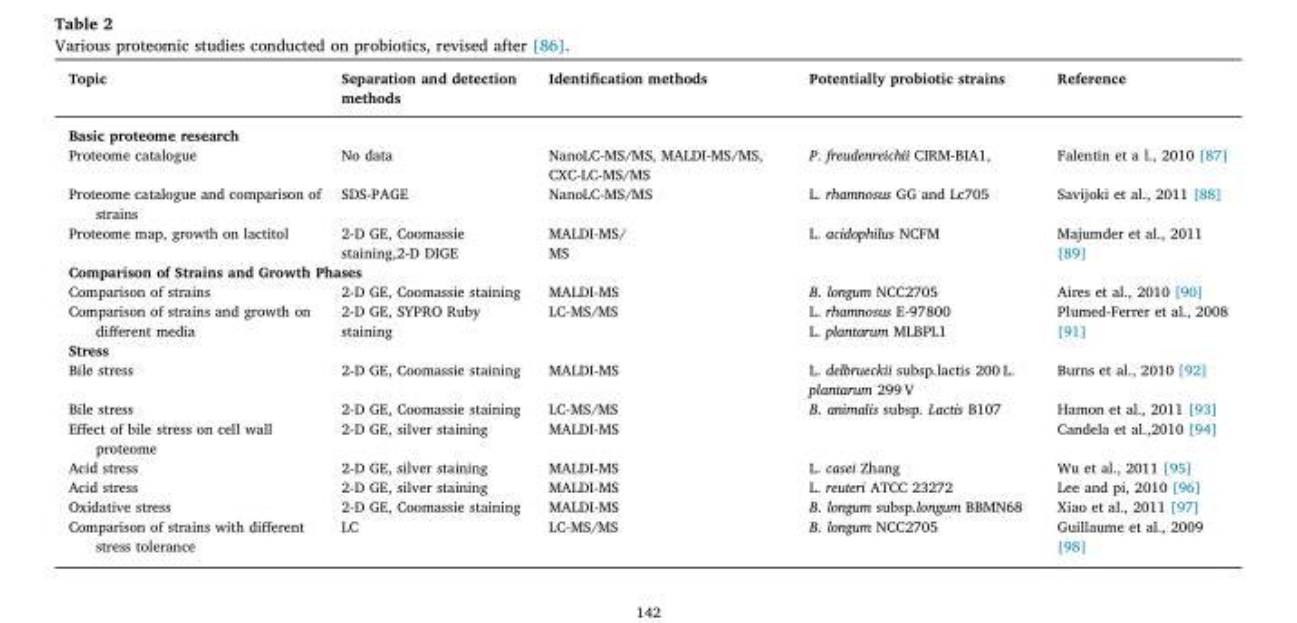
<table><thead><tr><td>Topic</td><td>Separation and detection methods</td><td>Identification methods</td><td>Potentially probiotic strains</td><td>Reference</td></tr></thead><tbody><tr><td colspan="5">Basic proteome research</td></tr><tr><td>Proteome catalogue</td><td>No data</td><td>NanoLC-MS/MS, MALDI-MS/MS, CXC-LC-MS/MS</td><td>P. freudenreichii CIRM-BIA1,</td><td>Falentin et a l., 2010 [87]</td></tr><tr><td>Proteome catalogue and comparison of strains</td><td>SDS-PAGE</td><td>NanoLC-MS/MS</td><td>L. rhamnosus GG and Lc705</td><td>Savijoki et al., 2011 [88]</td></tr><tr><td rowspan="2">Proteome map, growth on lactitol</td><td rowspan="2">2-D GE, Coomassie staining,2-D DIGE</td><td>MALDI-MS/</td><td rowspan="2">L. acidophilus NCFM</td><td rowspan="2">Majumder et al., 2011 [89]</td></tr><tr><td>MS</td></tr><tr><td colspan="5">Comparison of Strains and Growth Phases</td></tr><tr><td>Comparison of strains</td><td>2-D GE, Coomassie staining</td><td>MALDI-MS</td><td>B. longum NCC2705</td><td>Aires et al., 2010 [90]</td></tr><tr><td rowspan="2">Comparison of strains and growth on different media</td><td rowspan="2">2-D GE, SYPRO Ruby staining</td><td rowspan="2">LC-MS/MS</td><td>L. rhamnosus E-97800</td><td rowspan="2">Plumed-Ferrer et al., 2008 [91]</td></tr><tr><td>L. plantarum MLBPL1</td></tr><tr><td colspan="5">Stress</td></tr><tr><td>Bile stress</td><td>2-D GE, Coomassie staining</td><td>MALDI-MS</td><td>L. delbrueckii subsp.lactis 200 L. plantarum 299 V</td><td>Burns et al., 2010 [92]</td></tr><tr><td>Bile stress</td><td>2-D GE, Coomassie staining</td><td>LC-MS/MS</td><td>B. animalis subsp. Lactis B107</td><td>Hamon et al., 2011 [93]</td></tr><tr><td>Effect of bile stress on cell wall proteome</td><td>2-D GE, silver staining</td><td>MALDI-MS</td><td></td><td>Candela et al.,2010 [94]</td></tr><tr><td>Acid stress</td><td>2-D GE, silver staining</td><td>MALDI-MS</td><td>L. casei Zhang</td><td>Wu et al., 2011 [95]</td></tr><tr><td>Acid stress</td><td>2-D GE, silver staining</td><td>MALDI-MS</td><td>L. reuteri ATCC 23272</td><td>Lee and pi, 2010 [96]</td></tr><tr><td>Oxidative stress</td><td>2-D GE, Coomassie staining</td><td>MALDI-MS</td><td>B. longum subsp.longum BBMN68</td><td>Xiao et al., 2011 [97]</td></tr><tr><td>Comparison of strains with different stress tolerance</td><td>LC</td><td>LC-MS/MS</td><td>B. longum NCC2705</td><td>Guillaume et al., 2009 [98]</td></tr></tbody></table>